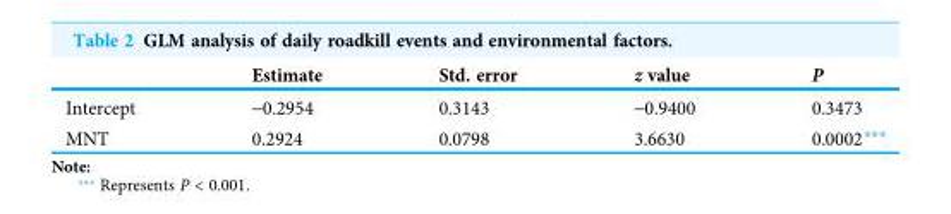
<table><thead><tr><td></td><td>Estimate</td><td>Std. error</td><td>z value</td><td>P</td></tr></thead><tbody><tr><td>Intercept</td><td>-0.2954</td><td>0.3143</td><td>-0.9400</td><td>0.3473</td></tr><tr><td>MNT</td><td>0.2924</td><td>0.0798</td><td>3.6630</td><td>0.0002***</td></tr></tbody></table>